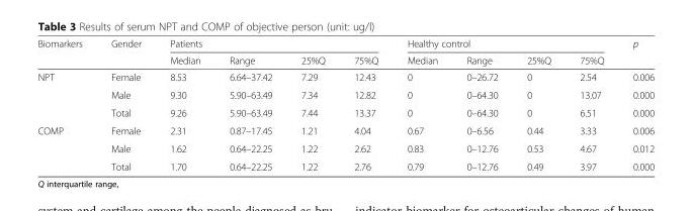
<table><thead><tr><td rowspan="2">Biomarkers</td><td rowspan="2">Gender</td><td colspan="4">Patients</td><td colspan="4">Healthy control</td><td rowspan="2">p</td></tr><tr><td>Median</td><td>Range</td><td>25%Q</td><td>75%Q</td><td>Median</td><td>Range</td><td>25%Q</td><td>75%Q</td></tr></thead><tbody><tr><td rowspan="3">NPT</td><td>Female</td><td>8.53</td><td>6.64–37.42</td><td>7.29</td><td>12.43</td><td>0</td><td>0–26.72</td><td>0</td><td>2.54</td><td>0.006</td></tr><tr><td>Male</td><td>9.30</td><td>5.90–63.49</td><td>7.34</td><td>12.82</td><td>0</td><td>0–64.30</td><td>0</td><td>13.07</td><td>0.000</td></tr><tr><td>Total</td><td>9.26</td><td>5.90–63.49</td><td>7.44</td><td>13.37</td><td>0</td><td>0–64.30</td><td>0</td><td>6.51</td><td>0.000</td></tr><tr><td rowspan="3">COMP</td><td>Female</td><td>2.31</td><td>0.87–17.45</td><td>1.21</td><td>4.04</td><td>0.67</td><td>0–6.56</td><td>0.44</td><td>3.33</td><td>0.006</td></tr><tr><td>Male</td><td>1.62</td><td>0.64–22.25</td><td>1.22</td><td>2.62</td><td>0.83</td><td>0–12.76</td><td>0.53</td><td>4.67</td><td>0.012</td></tr><tr><td>Total</td><td>1.70</td><td>0.64–22.25</td><td>1.22</td><td>2.76</td><td>0.79</td><td>0–12.76</td><td>0.49</td><td>3.97</td><td>0.000</td></tr></tbody></table>